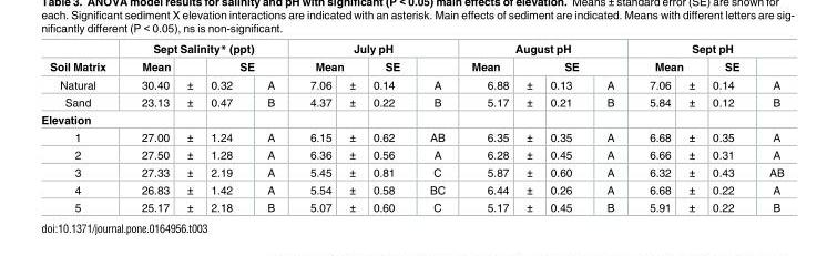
<table><thead><tr><td rowspan="3">Soil Matrix Natural</td><td colspan="4">Sept Salinity* (ppt)</td><td colspan="4">July pH</td><td colspan="4">August pH</td><td colspan="4">Sept pH</td></tr><tr><td rowspan="2">Mean 30.40</td><td rowspan="2">±</td><td colspan="2">SE</td><td colspan="2">Mean</td><td rowspan="2">SE 0.14</td><td rowspan="2">A</td><td rowspan="2">Mean 6.88</td><td colspan="3">SE</td><td colspan="2">Mean</td><td rowspan="2">SE 0.14</td><td rowspan="2">A</td></tr><tr><td>0.32</td><td>A</td><td>7.06</td><td>±</td><td>±</td><td>0.13</td><td>A</td><td>7.06</td><td>±</td></tr></thead><tbody><tr><td>Sand</td><td>23.13</td><td>±</td><td>0.47</td><td>B</td><td>4.37</td><td>±</td><td>0.22</td><td>B</td><td>5.17</td><td>±</td><td>0.21</td><td>B</td><td>5.84</td><td>±</td><td>0.12</td><td>B</td></tr><tr><td colspan="17">Elevation</td></tr><tr><td>1</td><td>27.00</td><td>±</td><td>1.24</td><td>A</td><td>6.15</td><td>±</td><td>0.62</td><td>AB</td><td>6.35</td><td>±</td><td>0.35</td><td>A</td><td>6.68</td><td>±</td><td>0.35</td><td>A</td></tr><tr><td>2</td><td>27.50</td><td>±</td><td>1.28</td><td>A</td><td>6.36</td><td>±</td><td>0.56</td><td>A</td><td>6.28</td><td>±</td><td>0.45</td><td>A</td><td>6.66</td><td>±</td><td>0.31</td><td>A</td></tr><tr><td>3</td><td>27.33</td><td>±</td><td>2.19</td><td>A</td><td>5.45</td><td>±</td><td>0.81</td><td>C</td><td>5.87</td><td>±</td><td>0.60</td><td>A</td><td>6.32</td><td>±</td><td>0.43</td><td>AB</td></tr><tr><td>4</td><td>26.83</td><td>±</td><td>1.42</td><td>A</td><td>5.54</td><td>±</td><td>0.58</td><td>BC</td><td>6.44</td><td>±</td><td>0.26</td><td>A</td><td>6.68</td><td>±</td><td>0.22</td><td>A</td></tr><tr><td>5</td><td>25.17</td><td>±</td><td>2.18</td><td>B</td><td>5.07</td><td>±</td><td>0.60</td><td>C</td><td>5.17</td><td>±</td><td>0.45</td><td>B</td><td>5.91</td><td>±</td><td>0.22</td><td>B</td></tr></tbody></table>